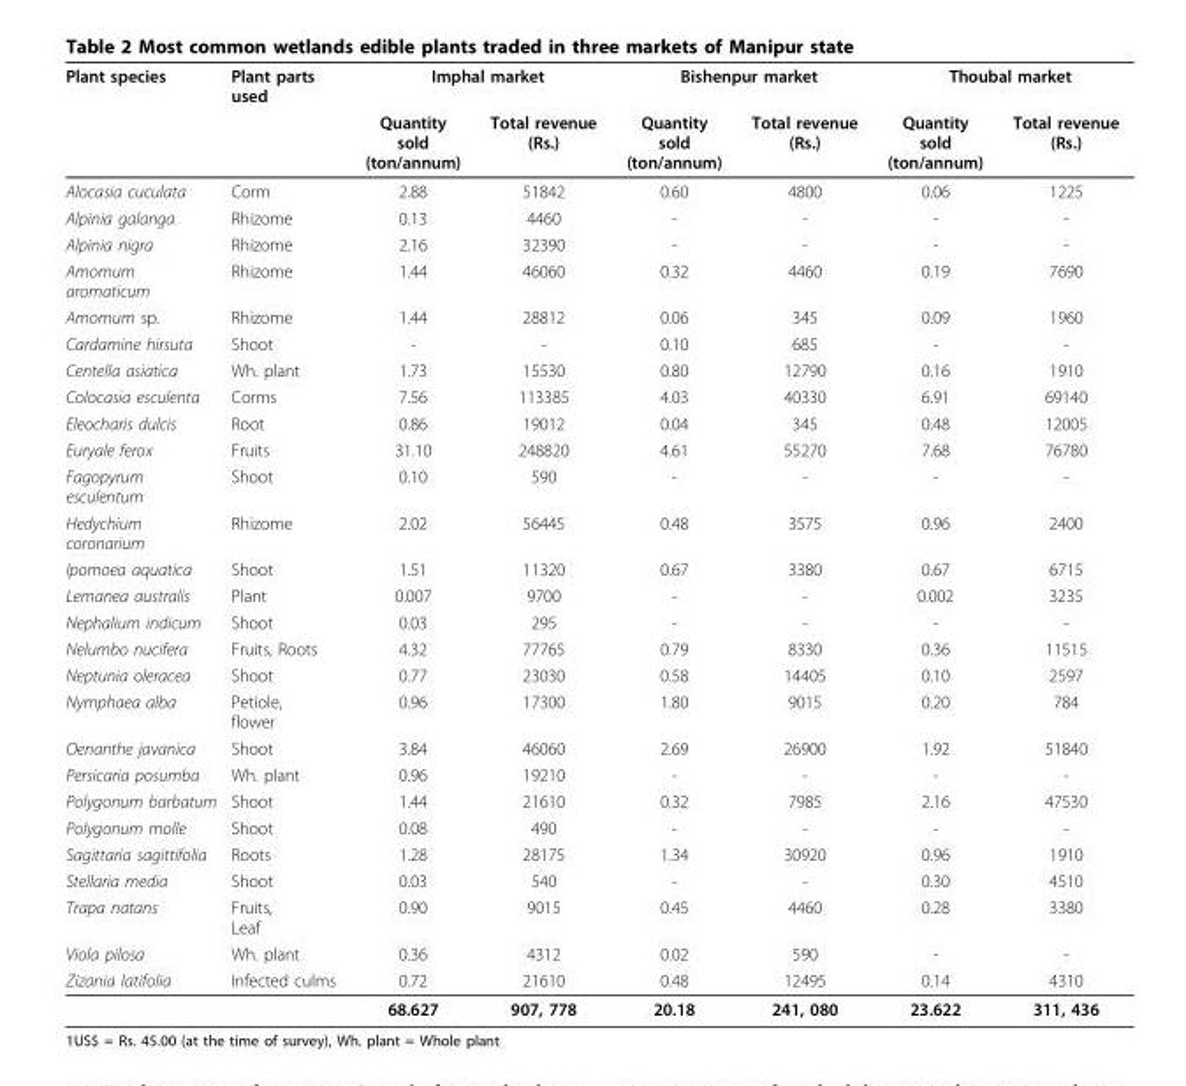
<table><thead><tr><td rowspan="2">Plant species</td><td rowspan="2">Plant parts used</td><td colspan="2">Imphal market</td><td colspan="2">Bishenpur market</td><td colspan="2">Thoubal market</td></tr><tr><td>Quantity sold (ton/annum)</td><td>Total revenue (Rs.)</td><td>Quantity sold (ton/annum)</td><td>Total revenue (Rs.)</td><td>Quantity sold (ton/annum)</td><td>Total revenue (Rs.)</td></tr></thead><tbody><tr><td>Alocasia cuculata</td><td>Corm</td><td>2.88</td><td>51842</td><td>0.60</td><td>4800</td><td>0.06</td><td>1225</td></tr><tr><td>Alpinia galanga</td><td>Rhizome</td><td>0.13</td><td>4460</td><td>-</td><td>-</td><td>-</td><td>-</td></tr><tr><td>Alpinia nigra</td><td>Rhizome</td><td>2.16</td><td>32390</td><td>-</td><td>-</td><td>-</td><td>-</td></tr><tr><td>Amomum aromaticum</td><td>Rhizome</td><td>1.44</td><td>46060</td><td>0.32</td><td>4460</td><td>0.19</td><td>7690</td></tr><tr><td>Amomum sp.</td><td>Rhizome</td><td>1.44</td><td>28812</td><td>0.06</td><td>345</td><td>0.09</td><td>1960</td></tr><tr><td>Cardamine hirsuta</td><td>Shoot</td><td>-</td><td>-</td><td>0.10</td><td>685</td><td>-</td><td>-</td></tr><tr><td>Centella asiatica</td><td>Wh. plant</td><td>1.73</td><td>15530</td><td>0.80</td><td>12790</td><td>0.16</td><td>1910</td></tr><tr><td>Colocasia esculenta</td><td>Corms</td><td>7.56</td><td>113385</td><td>4.03</td><td>40330</td><td>6.91</td><td>69140</td></tr><tr><td>Eleocharis dulcis</td><td>Root</td><td>0.86</td><td>19012</td><td>0.04</td><td>345</td><td>0.48</td><td>12005</td></tr><tr><td>Euryale ferox</td><td>Fruits</td><td>31.10</td><td>248820</td><td>4.61</td><td>55270</td><td>7.68</td><td>76780</td></tr><tr><td>Fagopyrum esculentum</td><td>Shoot</td><td>0.10</td><td>590</td><td>-</td><td>-</td><td>-</td><td>-</td></tr><tr><td>Hedychium coronarium</td><td>Rhizome</td><td>2.02</td><td>56445</td><td>0.48</td><td>3575</td><td>0.96</td><td>2400</td></tr><tr><td>Ipomoea aquatica</td><td>Shoot</td><td>1.51</td><td>11320</td><td>0.67</td><td>3380</td><td>0.67</td><td>6715</td></tr><tr><td>Lemanea australis</td><td>Plant</td><td>0.007</td><td>9700</td><td>-</td><td>-</td><td>0.002</td><td>3235</td></tr><tr><td>Nephalium indicum</td><td>Shoot</td><td>0.03</td><td>295</td><td>-</td><td>-</td><td>-</td><td>-</td></tr><tr><td>Nelumbo nucifera</td><td>Fruits, Roots</td><td>4.32</td><td>77765</td><td>0.79</td><td>8330</td><td>0.36</td><td>11515</td></tr><tr><td>Neptunia oleracea</td><td>Shoot</td><td>0.77</td><td>23030</td><td>0.58</td><td>14405</td><td>0.10</td><td>2597</td></tr><tr><td>Nymphaea alba</td><td>Petiole, flower</td><td>0.96</td><td>17300</td><td>1.80</td><td>9015</td><td>0.20</td><td>784</td></tr><tr><td>Oenanthe javanica</td><td>Shoot</td><td>3.84</td><td>46060</td><td>2.69</td><td>26900</td><td>1.92</td><td>51840</td></tr><tr><td>Persicaria posumba</td><td>Wh. plant</td><td>0.96</td><td>19210</td><td>-</td><td>-</td><td>-</td><td>-</td></tr><tr><td>Polygonum barbatum</td><td>Shoot</td><td>1.44</td><td>21610</td><td>0.32</td><td>7985</td><td>2.16</td><td>47530</td></tr><tr><td>Polygonum molle</td><td>Shoot</td><td>0.08</td><td>490</td><td>-</td><td>-</td><td>-</td><td>-</td></tr><tr><td>Sagittaria sagittifolia</td><td>Roots</td><td>1.28</td><td>28175</td><td>1.34</td><td>30920</td><td>0.96</td><td>1910</td></tr><tr><td>Stellaria media</td><td>Shoot</td><td>0.03</td><td>540</td><td>-</td><td>-</td><td>0.30</td><td>4510</td></tr><tr><td>Trapa natans</td><td>Fruits, Leaf</td><td>0.90</td><td>9015</td><td>0.45</td><td>4460</td><td>0.28</td><td>3380</td></tr><tr><td>Viola pilosa</td><td>Wh. plant</td><td>0.36</td><td>4312</td><td>0.02</td><td>590</td><td>-</td><td>-</td></tr><tr><td rowspan="2">Zizania latifolia</td><td>Infected culms</td><td>0.72</td><td>21610</td><td>0.48</td><td>12495</td><td>0.14</td><td>4310</td></tr><tr><td></td><td>68.627</td><td>907, 778</td><td>20.18</td><td>241, 080</td><td>23.622</td><td>311, 436</td></tr></tbody></table>